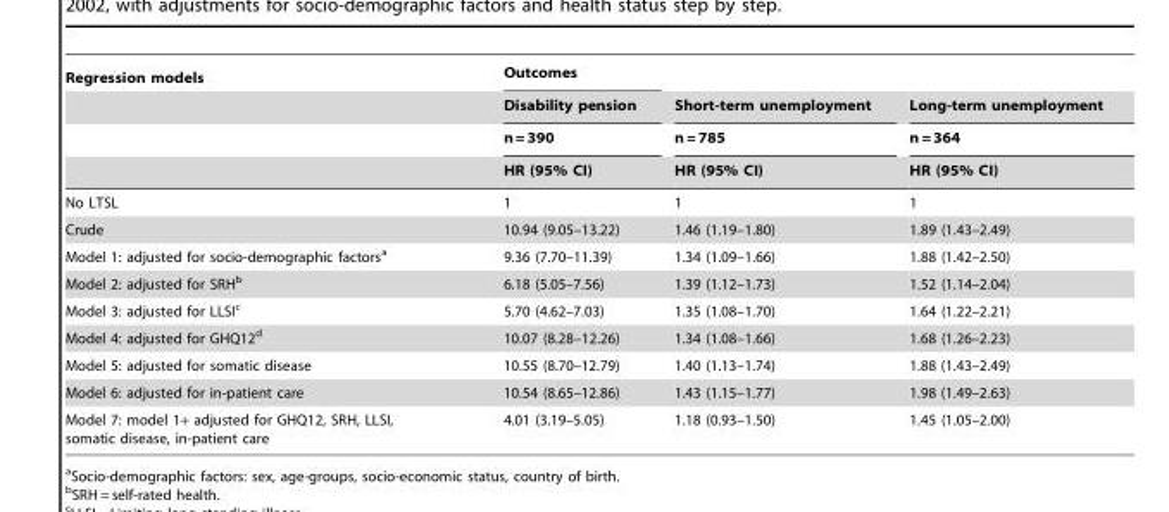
<table><thead><tr><td rowspan="4">Regression models</td><td rowspan="4">Outcomes Disability pension n = 390 HR (95% CI)</td><td rowspan="4">Short-term unemployment n = 785 HR (95% CI)</td><td rowspan="4">Long-term unemployment n = 364 HR (95% CI)</td></tr><tr></tr><tr></tr><tr></tr></thead><tbody><tr><td>No LTSL</td><td>1</td><td>1</td><td>1</td></tr><tr><td>Crude</td><td>10.94 (9.05–13.22)</td><td>1.46 (1.19–1.80)</td><td>1.89 (1.43–2.49)</td></tr><tr><td>Model 1: adjusted for socio-demographic factors<sup>a</sup></td><td>9.36 (7.70–11.39)</td><td>1.34 (1.09–1.66)</td><td>1.88 (1.42–2.50)</td></tr><tr><td>Model 2: adjusted for SRH<sup>b</sup></td><td>6.18 (5.05–7.56)</td><td>1.39 (1.12–1.73)</td><td>1.52 (1.14–2.04)</td></tr><tr><td>Model 3: adjusted for LLSI<sup>c</sup></td><td>5.70 (4.62–7.03)</td><td>1.35 (1.08–1.70)</td><td>1.64 (1.22–2.21)</td></tr><tr><td>Model 4: adjusted for GHQ12<sup>d</sup></td><td>10.07 (8.28–12.26)</td><td>1.34 (1.08–1.66)</td><td>1.68 (1.26–2.23)</td></tr><tr><td>Model 5: adjusted for somatic disease</td><td>10.55 (8.70–12.79)</td><td>1.40 (1.13–1.74)</td><td>1.88 (1.43–2.49)</td></tr><tr><td>Model 6: adjusted for in-patient care</td><td>10.54 (8.65–12.86)</td><td>1.43 (1.15–1.77)</td><td>1.98 (1.49–2.63)</td></tr><tr><td>Model 7: model 1+ adjusted for GHQ12, SRH, LLSI, somatic disease, in-patient care</td><td>4.01 (3.19–5.05)</td><td>1.18 (0.93–1.50)</td><td>1.45 (1.05–2.00)</td></tr></tbody></table>